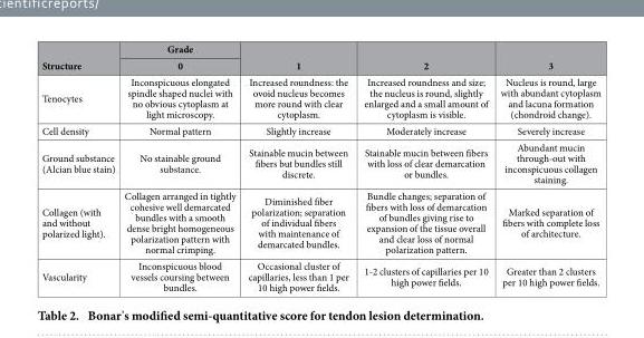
<table><thead><tr><td rowspan="2">Structure</td><td rowspan="2">Grade 0</td><td rowspan="2">1</td><td rowspan="2">2</td><td rowspan="2">3</td></tr><tr></tr></thead><tbody><tr><td>Tenocytes</td><td>Inconspicuous elongated spindle shaped nuclei with no obvious cytoplasm at light microscopy.</td><td>Increased roundness: the ovoid nucleus becomes more round with clear cytoplasm.</td><td>Increased roundness and size; the nucleus is round, slightly enlarged and a small amount of cytoplasm is visible.</td><td>Nucleus is round, large with abundant cytoplasm and lacuna formation (chondroid change).</td></tr><tr><td>Cell density</td><td>Normal pattern</td><td>Slightly increase</td><td>Moderately increase</td><td>Severely increase</td></tr><tr><td>Ground substance (Alcian blue stain)</td><td>No stainable ground substance.</td><td>Stainable mucin between fibers but bundles still discrete.</td><td>Stainable mucin between fibers with loss of clear demarcation or bundles.</td><td>Abundant mucin through-out with inconspicuous collagen staining.</td></tr><tr><td>Collagen (with and without polarized light).</td><td>Collagen arranged in tightly cohesive well demarcated bundles with a smooth dense bright homogeneous polarization pattern with normal crimping.</td><td>Diminished fiber polarization; separation of individual fibers with maintenance of demarcated bundles.</td><td>Bundle changes; separation of fibers with loss of demarcation of bundles giving rise to expansion of the tissue overall and clear loss of normal polarization pattern.</td><td>Marked separation of fibers with complete loss of architecture.</td></tr><tr><td>Vascularity</td><td>Inconspicuous blood vessels coursing between bundles.</td><td>Occasional cluster of capillaries, less than 1 per 10 high power fields.</td><td>1-2 clusters of capillaries per 10 high power fields.</td><td>Greater than 2 clusters per 10 high power fields.</td></tr></tbody></table>